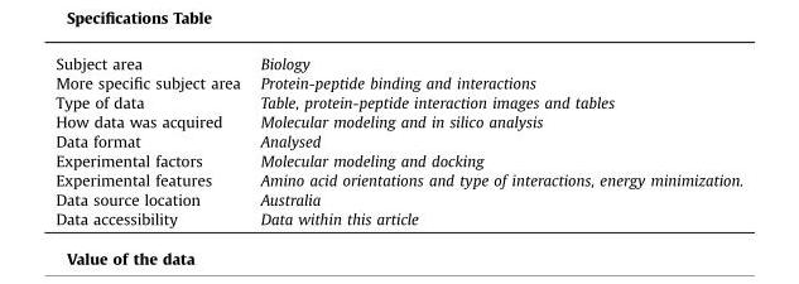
<table><tbody><tr><td>Subject area</td><td>Biology</td></tr><tr><td>More specific subject area</td><td>Protein-peptide binding and interactions</td></tr><tr><td>Type of data</td><td>Table, protein-peptide interaction images and tables</td></tr><tr><td>How data was acquired</td><td>Molecular modeling and in silico analysis</td></tr><tr><td>Data format</td><td>Analysed</td></tr><tr><td>Experimental factors</td><td>Molecular modeling and docking</td></tr><tr><td>Experimental features</td><td>Amino acid orientations and type of interactions, energy minimization.</td></tr><tr><td>Data source location</td><td>Australia</td></tr><tr><td>Data accessibility</td><td>Data within this article</td></tr></tbody></table>